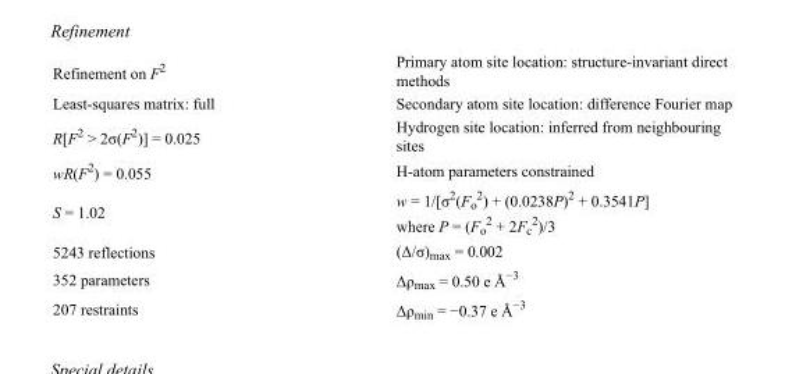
<table><tbody><tr><td>Refinement on F<sup>2</sup></td><td>Primary atom site location: structure-invariant direct methods</td></tr><tr><td>Least-squares matrix: full</td><td>Secondary atom site location: difference Fourier map</td></tr><tr><td>R[F<sup>2</sup> &gt; 2σ(F<sup>2</sup>)] = 0.025</td><td>Hydrogen site location: inferred from neighbouring sites</td></tr><tr><td>wR(F<sup>2</sup>) = 0.055</td><td>H-atom parameters constrained</td></tr><tr><td>S = 1.02</td><td>w = 1/[σ<sup>2</sup>(F<sub>o</sub> <sup>2</sup>) + (0.0238P)<sup>2</sup> + 0.3541P] where P = (F<sub>o</sub> <sup>2</sup> + 2F<sub>c</sub> <sup>2</sup>)/3</td></tr><tr><td>5243 reflections</td><td>(Δ/σ)<sub>max</sub> = 0.002</td></tr><tr><td>352 parameters</td><td>Δρ<sub>max</sub> = 0.50 e Å<sup>−3</sup></td></tr><tr><td>207 restraints</td><td>Δρ<sub>min</sub> = −0.37 e Å<sup>−3</sup></td></tr></tbody></table>